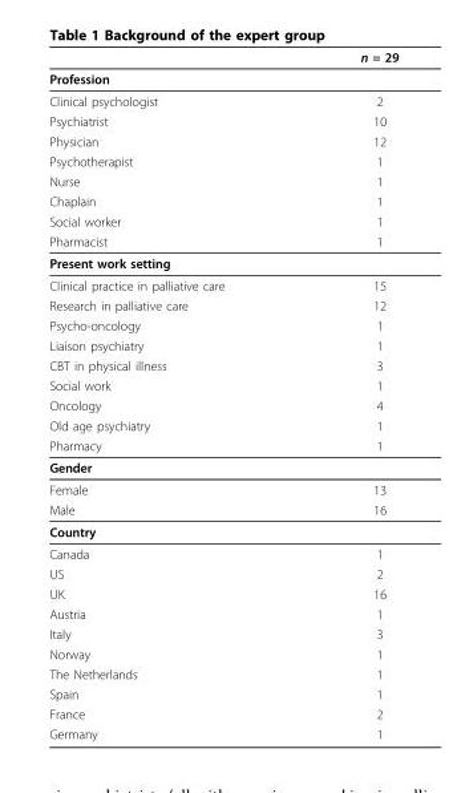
<table><thead><tr><td></td><td>n = 29</td></tr></thead><tbody><tr><td colspan="2">Profession</td></tr><tr><td>Clinical psychologist</td><td>2</td></tr><tr><td>Psychiatrist</td><td>10</td></tr><tr><td>Physician</td><td>12</td></tr><tr><td>Psychotherapist</td><td>1</td></tr><tr><td>Nurse</td><td>1</td></tr><tr><td>Chaplain</td><td>1</td></tr><tr><td>Social worker</td><td>1</td></tr><tr><td>Pharmacist</td><td>1</td></tr><tr><td colspan="2">Present work setting</td></tr><tr><td>Clinical practice in palliative care</td><td>15</td></tr><tr><td>Research in palliative care</td><td>12</td></tr><tr><td>Psycho-oncology</td><td>1</td></tr><tr><td>Liaison psychiatry</td><td>1</td></tr><tr><td>CBT in physical illness</td><td>3</td></tr><tr><td>Social work</td><td>1</td></tr><tr><td>Oncology</td><td>4</td></tr><tr><td>Old age psychiatry</td><td>1</td></tr><tr><td>Pharmacy</td><td>1</td></tr><tr><td colspan="2">Gender</td></tr><tr><td>Female</td><td>13</td></tr><tr><td>Male</td><td>16</td></tr><tr><td colspan="2">Country</td></tr><tr><td>Canada</td><td>1</td></tr><tr><td>US</td><td>2</td></tr><tr><td>UK</td><td>16</td></tr><tr><td>Austria</td><td>1</td></tr><tr><td>Italy</td><td>3</td></tr><tr><td>Norway</td><td>1</td></tr><tr><td>The Netherlands</td><td>1</td></tr><tr><td>Spain</td><td>1</td></tr><tr><td>France</td><td>2</td></tr><tr><td>Germany</td><td>1</td></tr></tbody></table>